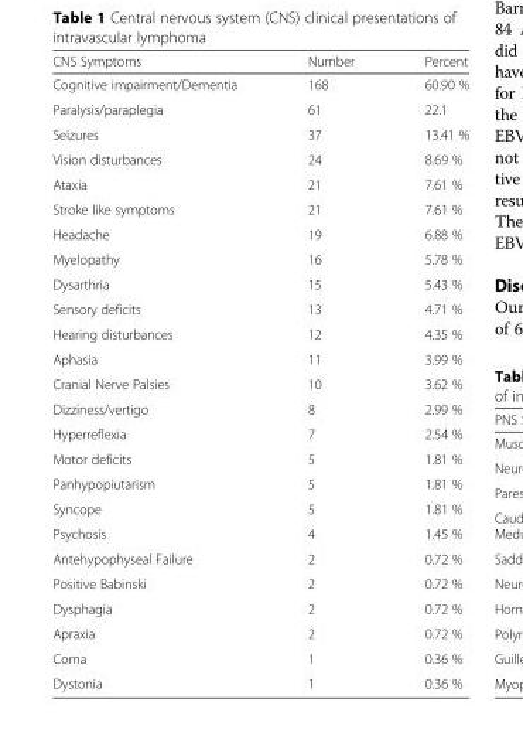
<table><thead><tr><td>CNS Symptoms</td><td>Number</td><td>Percent</td></tr></thead><tbody><tr><td>Cognitive impairment/Dementia</td><td>168</td><td>60.90 %</td></tr><tr><td>Paralysis/paraplegia</td><td>61</td><td>22.1</td></tr><tr><td>Seizures</td><td>37</td><td>13.41 %</td></tr><tr><td>Vision disturbances</td><td>24</td><td>8.69 %</td></tr><tr><td>Ataxia</td><td>21</td><td>7.61 %</td></tr><tr><td>Stroke like symptoms</td><td>21</td><td>7.61 %</td></tr><tr><td>Headache</td><td>19</td><td>6.88 %</td></tr><tr><td>Myelopathy</td><td>16</td><td>5.78 %</td></tr><tr><td>Dysarthria</td><td>15</td><td>5.43 %</td></tr><tr><td>Sensory deficits</td><td>13</td><td>4.71 %</td></tr><tr><td>Hearing disturbances</td><td>12</td><td>4.35 %</td></tr><tr><td>Aphasia</td><td>11</td><td>3.99 %</td></tr><tr><td>Cranial Nerve Palsies</td><td>10</td><td>3.62 %</td></tr><tr><td>Dizziness/vertigo</td><td>8</td><td>2.99 %</td></tr><tr><td>Hyperreflexia</td><td>7</td><td>2.54 %</td></tr><tr><td>Motor deficits</td><td>5</td><td>1.81 %</td></tr><tr><td>Panhypopiutarism</td><td>5</td><td>1.81 %</td></tr><tr><td>Syncope</td><td>5</td><td>1.81 %</td></tr><tr><td>Psychosis</td><td>4</td><td>1.45 %</td></tr><tr><td>Antehypophyseal Failure</td><td>2</td><td>0.72 %</td></tr><tr><td>Positive Babinski</td><td>2</td><td>0.72 %</td></tr><tr><td>Dysphagia</td><td>2</td><td>0.72 %</td></tr><tr><td>Apraxia</td><td>2</td><td>0.72 %</td></tr><tr><td>Coma</td><td>1</td><td>0.36 %</td></tr><tr><td>Dystonia</td><td>1</td><td>0.36 %</td></tr></tbody></table>